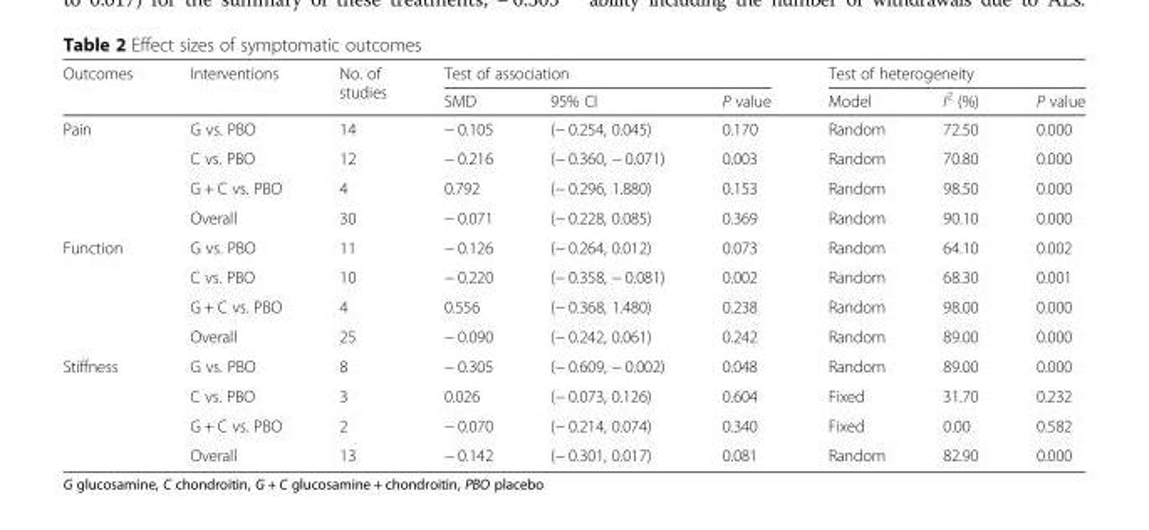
<table><thead><tr><td rowspan="2">Outcomes</td><td rowspan="2">Interventions</td><td rowspan="2">No. of studies</td><td colspan="3">Test of association</td><td colspan="3">Test of heterogeneity</td></tr><tr><td>SMD</td><td>95% CI</td><td>P value</td><td>Model</td><td>I<sup>2</sup> (%)</td><td>P value</td></tr></thead><tbody><tr><td rowspan="4">Pain</td><td>G vs. PBO</td><td>14</td><td>− 0.105</td><td>(− 0.254, 0.045)</td><td>0.170</td><td>Random</td><td>72.50</td><td>0.000</td></tr><tr><td>C vs. PBO</td><td>12</td><td>− 0.216</td><td>(− 0.360, − 0.071)</td><td>0.003</td><td>Random</td><td>70.80</td><td>0.000</td></tr><tr><td>G + C vs. PBO</td><td>4</td><td>0.792</td><td>(− 0.296, 1.880)</td><td>0.153</td><td>Random</td><td>98.50</td><td>0.000</td></tr><tr><td>Overall</td><td>30</td><td>− 0.071</td><td>(− 0.228, 0.085)</td><td>0.369</td><td>Random</td><td>90.10</td><td>0.000</td></tr><tr><td rowspan="4">Function</td><td>G vs. PBO</td><td>11</td><td>− 0.126</td><td>(− 0.264, 0.012)</td><td>0.073</td><td>Random</td><td>64.10</td><td>0.002</td></tr><tr><td>C vs. PBO</td><td>10</td><td>− 0.220</td><td>(− 0.358, − 0.081)</td><td>0.002</td><td>Random</td><td>68.30</td><td>0.001</td></tr><tr><td>G + C vs. PBO</td><td>4</td><td>0.556</td><td>(− 0.368, 1.480)</td><td>0.238</td><td>Random</td><td>98.00</td><td>0.000</td></tr><tr><td>Overall</td><td>25</td><td>− 0.090</td><td>(− 0.242, 0.061)</td><td>0.242</td><td>Random</td><td>89.00</td><td>0.000</td></tr><tr><td rowspan="4">Stiffness</td><td>G vs. PBO</td><td>8</td><td>− 0.305</td><td>(− 0.609, − 0.002)</td><td>0.048</td><td>Random</td><td>89.00</td><td>0.000</td></tr><tr><td>C vs. PBO</td><td>3</td><td>0.026</td><td>(− 0.073, 0.126)</td><td>0.604</td><td>Fixed</td><td>31.70</td><td>0.232</td></tr><tr><td>G + C vs. PBO</td><td>2</td><td>− 0.070</td><td>(− 0.214, 0.074)</td><td>0.340</td><td>Fixed</td><td>0.00</td><td>0.582</td></tr><tr><td>Overall</td><td>13</td><td>− 0.142</td><td>(− 0.301, 0.017)</td><td>0.081</td><td>Random</td><td>82.90</td><td>0.000</td></tr></tbody></table>